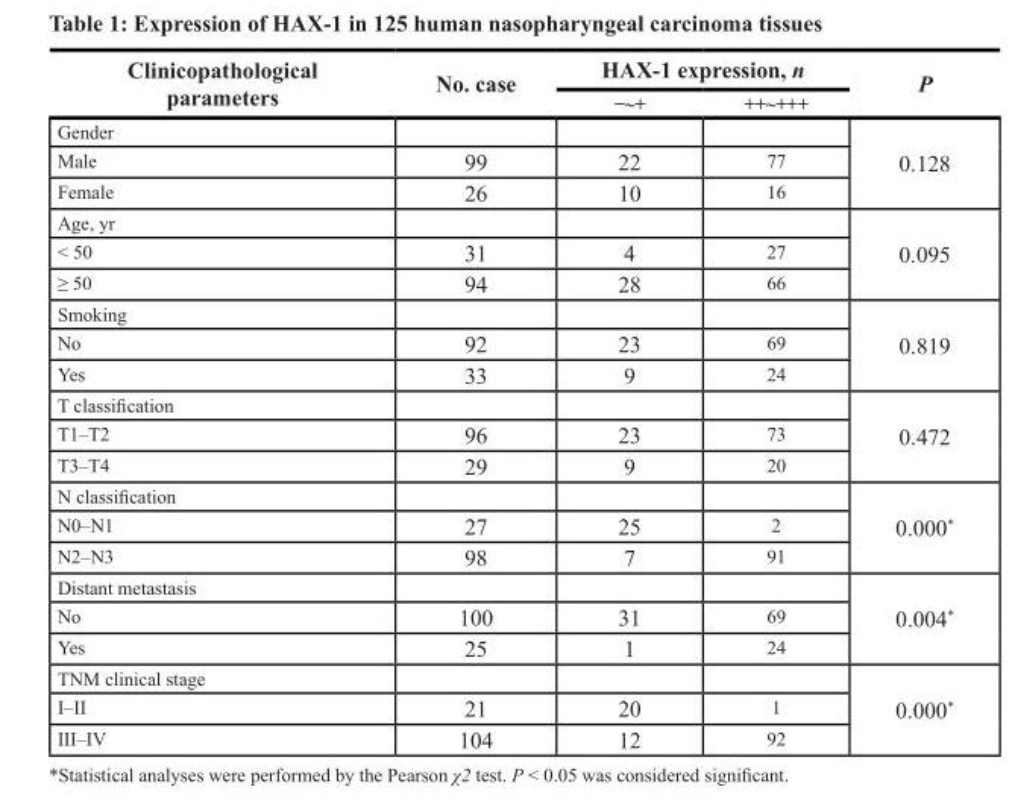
<table><thead><tr><td rowspan="2">Clinicopathological parameters</td><td rowspan="2">No. case</td><td colspan="2">HAX-1 expression, n</td><td rowspan="2">P</td></tr><tr><td>−~+</td><td>++~+++</td></tr></thead><tbody><tr><td colspan="4">Gender</td><td rowspan="3">0.128</td></tr><tr><td>Male</td><td>99</td><td>22</td><td>77</td></tr><tr><td>Female</td><td>26</td><td>10</td><td>16</td></tr><tr><td colspan="4">Age, yr</td><td rowspan="3">0.095</td></tr><tr><td>&lt; 50</td><td>31</td><td>4</td><td>27</td></tr><tr><td>≥ 50</td><td>94</td><td>28</td><td>66</td></tr><tr><td colspan="4">Smoking</td><td rowspan="3">0.819</td></tr><tr><td>No</td><td>92</td><td>23</td><td>69</td></tr><tr><td>Yes</td><td>33</td><td>9</td><td>24</td></tr><tr><td colspan="4">T classification</td><td rowspan="3">0.472</td></tr><tr><td>T1–T2</td><td>96</td><td>23</td><td>73</td></tr><tr><td>T3–T4</td><td>29</td><td>9</td><td>20</td></tr><tr><td colspan="4">N classification</td><td rowspan="3">0.000*</td></tr><tr><td>N0–N1</td><td>27</td><td>25</td><td>2</td></tr><tr><td>N2–N3</td><td>98</td><td>7</td><td>91</td></tr><tr><td colspan="4">Distant metastasis</td><td rowspan="3">0.004*</td></tr><tr><td>No</td><td>100</td><td>31</td><td>69</td></tr><tr><td>Yes</td><td>25</td><td>1</td><td>24</td></tr><tr><td colspan="4">TNM clinical stage</td><td rowspan="3">0.000*</td></tr><tr><td>I–II</td><td>21</td><td>20</td><td>1</td></tr><tr><td>III–IV</td><td>104</td><td>12</td><td>92</td></tr></tbody></table>